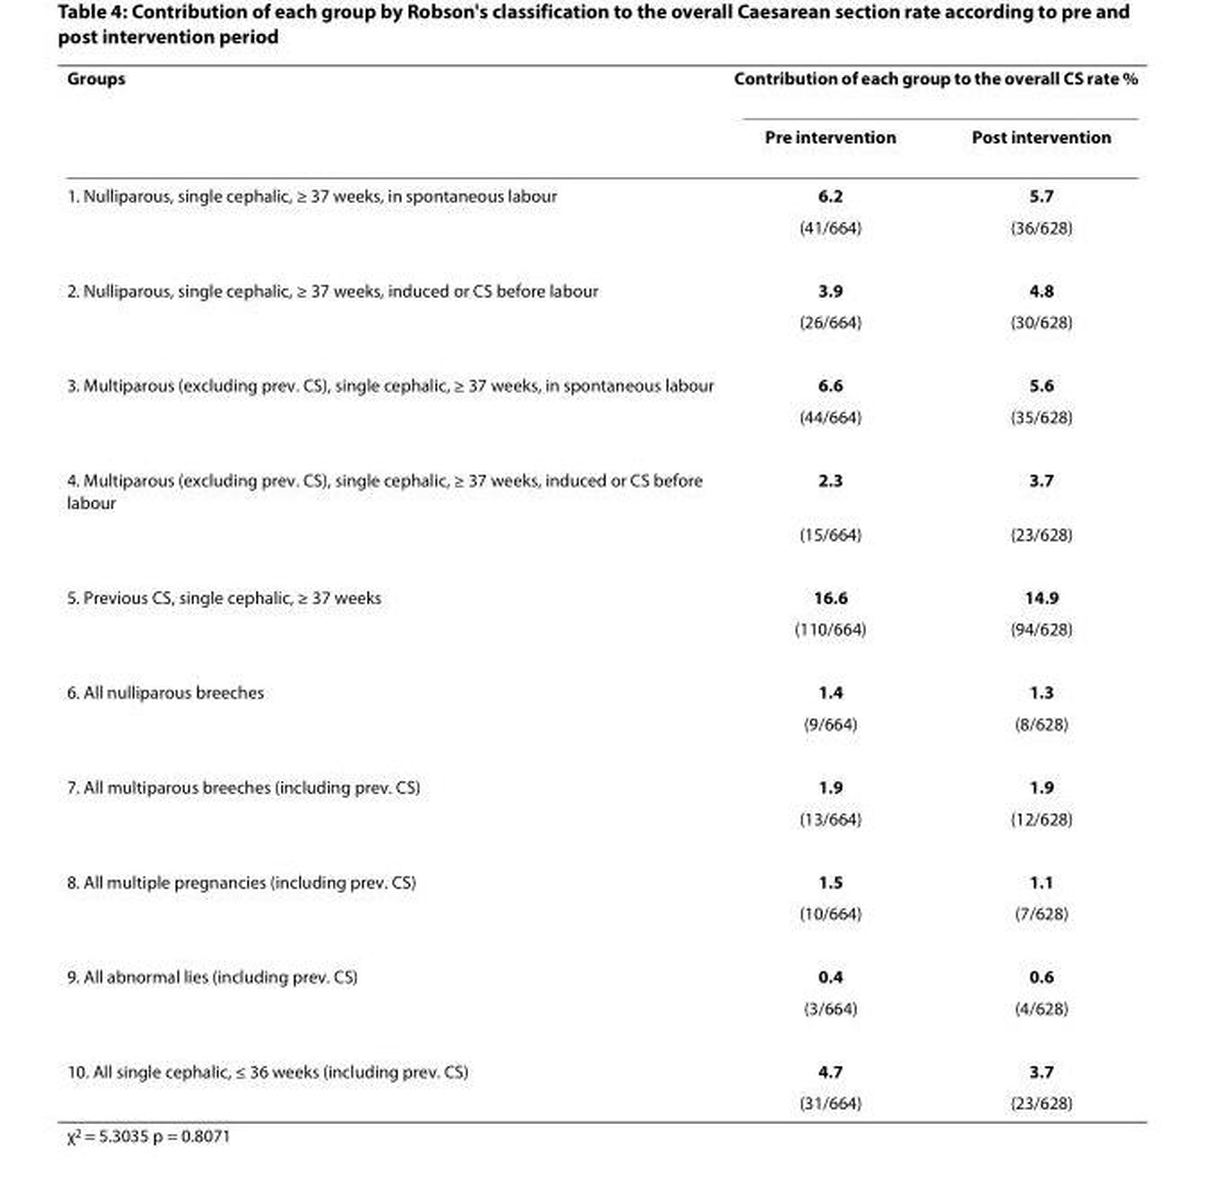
<table><thead><tr><td rowspan="2">Groups</td><td colspan="2">Contribution of each group to the overall CS rate %</td></tr><tr><td>Pre intervention</td><td>Post intervention</td></tr></thead><tbody><tr><td rowspan="2">1. Nulliparous, single cephalic, ≥ 37 weeks, in spontaneous labour</td><td>6.2</td><td>5.7</td></tr><tr><td>(41/664)</td><td>(36/628)</td></tr><tr><td rowspan="2">2. Nulliparous, single cephalic, ≥ 37 weeks, induced or CS before labour</td><td>3.9</td><td>4.8</td></tr><tr><td>(26/664)</td><td>(30/628)</td></tr><tr><td rowspan="2">3. Multiparous (excluding prev. CS), single cephalic, ≥ 37 weeks, in spontaneous labour</td><td>6.6</td><td>5.6</td></tr><tr><td>(44/664)</td><td>(35/628)</td></tr><tr><td rowspan="2">4. Multiparous (excluding prev. CS), single cephalic, ≥ 37 weeks, induced or CS before labour</td><td>2.3</td><td>3.7</td></tr><tr><td>(15/664)</td><td>(23/628)</td></tr><tr><td rowspan="2">5. Previous CS, single cephalic, ≥ 37 weeks</td><td>16.6</td><td>14.9</td></tr><tr><td>(110/664)</td><td>(94/628)</td></tr><tr><td rowspan="2">6. All nulliparous breeches</td><td>1.4</td><td>1.3</td></tr><tr><td>(9/664)</td><td>(8/628)</td></tr><tr><td rowspan="2">7. All multiparous breeches (including prev. CS)</td><td>1.9</td><td>1.9</td></tr><tr><td>(13/664)</td><td>(12/628)</td></tr><tr><td rowspan="2">8. All multiple pregnancies (including prev. CS)</td><td>1.5</td><td>1.1</td></tr><tr><td>(10/664)</td><td>(7/628)</td></tr><tr><td rowspan="2">9. All abnormal lies (including prev. CS)</td><td>0.4</td><td>0.6</td></tr><tr><td>(3/664)</td><td>(4/628)</td></tr><tr><td rowspan="2">10. All single cephalic, ≤ 36 weeks (including prev. CS)</td><td>4.7</td><td>3.7</td></tr><tr><td>(31/664)</td><td>(23/628)</td></tr></tbody></table>